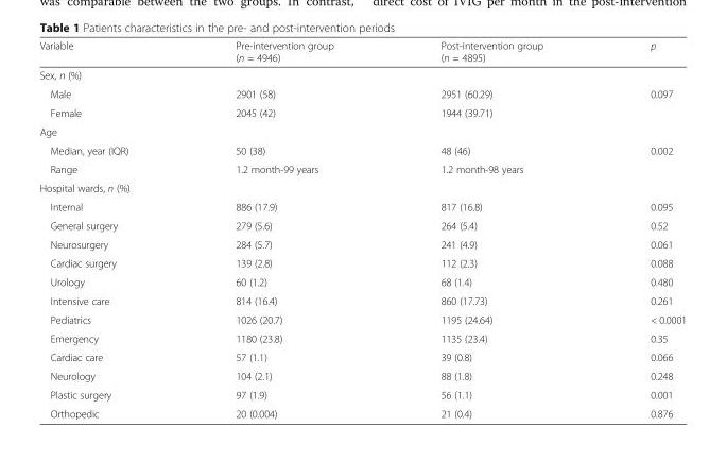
<table><thead><tr><td>Variable</td><td>Pre-intervention group (n = 4946)</td><td>Post-intervention group (n = 4895)</td><td>p</td></tr></thead><tbody><tr><td colspan="4">Sex, n (%)</td></tr><tr><td>Male</td><td>2901 (58)</td><td>2951 (60.29)</td><td rowspan="2">0.097</td></tr><tr><td>Female</td><td>2045 (42)</td><td>1944 (39.71)</td></tr><tr><td colspan="4">Age</td></tr><tr><td>Median, year (IQR)</td><td>50 (38)</td><td>48 (46)</td><td rowspan="2">0.002</td></tr><tr><td>Range</td><td>1.2 month-99 years</td><td>1.2 month-98 years</td></tr><tr><td colspan="4">Hospital wards, n (%)</td></tr><tr><td>Internal</td><td>886 (17.9)</td><td>817 (16.8)</td><td>0.095</td></tr><tr><td>General surgery</td><td>279 (5.6)</td><td>264 (5.4)</td><td>0.52</td></tr><tr><td>Neurosurgery</td><td>284 (5.7)</td><td>241 (4.9)</td><td>0.061</td></tr><tr><td>Cardiac surgery</td><td>139 (2.8)</td><td>112 (2.3)</td><td>0.088</td></tr><tr><td>Urology</td><td>60 (1.2)</td><td>68 (1.4)</td><td>0.480</td></tr><tr><td>Intensive care</td><td>814 (16.4)</td><td>860 (17.73)</td><td>0.261</td></tr><tr><td>Pediatrics</td><td>1026 (20.7)</td><td>1195 (24.64)</td><td>&lt; 0.0001</td></tr><tr><td>Emergency</td><td>1180 (23.8)</td><td>1135 (23.4)</td><td>0.35</td></tr><tr><td>Cardiac care</td><td>57 (1.1)</td><td>39 (0.8)</td><td>0.066</td></tr><tr><td>Neurology</td><td>104 (2.1)</td><td>88 (1.8)</td><td>0.248</td></tr><tr><td>Plastic surgery</td><td>97 (1.9)</td><td>56 (1.1)</td><td>0.001</td></tr><tr><td>Orthopedic</td><td>20 (0.004)</td><td>21 (0.4)</td><td>0.876</td></tr></tbody></table>